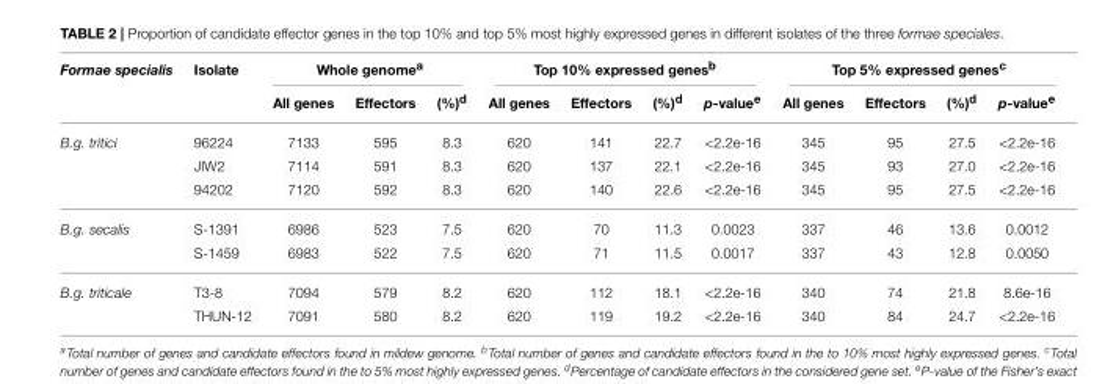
<table><thead><tr><td rowspan="2">Formae specialis</td><td rowspan="2">Isolate</td><td colspan="3">Whole genome<sup>a</sup></td><td colspan="4">Top 10% expressed genes<sup>b</sup></td><td colspan="4">Top 5% expressed genes<sup>c</sup></td></tr><tr><td>All genes</td><td>Effectors</td><td>(%)<sup>d</sup></td><td>All genes</td><td>Effectors</td><td>(%)<sup>d</sup></td><td>p-value<sup>e</sup></td><td>All genes</td><td>Effectors</td><td>(%)<sup>d</sup></td><td>p-value<sup>e</sup></td></tr></thead><tbody><tr><td rowspan="3">B.g. tritici</td><td>96224</td><td>7133</td><td>595</td><td>8.3</td><td>620</td><td>141</td><td>22.7</td><td>&lt;2.2e-16</td><td>345</td><td>95</td><td>27.5</td><td>&lt;2.2e-16</td></tr><tr><td>JIW2</td><td>7114</td><td>591</td><td>8.3</td><td>620</td><td>137</td><td>22.1</td><td>&lt;2.2e-16</td><td>345</td><td>93</td><td>27.0</td><td>&lt;2.2e-16</td></tr><tr><td>94202</td><td>7120</td><td>592</td><td>8.3</td><td>620</td><td>140</td><td>22.6</td><td>&lt;2.2e-16</td><td>345</td><td>95</td><td>27.5</td><td>&lt;2.2e-16</td></tr><tr><td rowspan="2">B.g. secalis</td><td>S-1391</td><td>6986</td><td>523</td><td>7.5</td><td>620</td><td>70</td><td>11.3</td><td>0.0023</td><td>337</td><td>46</td><td>13.6</td><td>0.0012</td></tr><tr><td>S-1459</td><td>6983</td><td>522</td><td>7.5</td><td>620</td><td>71</td><td>11.5</td><td>0.0017</td><td>337</td><td>43</td><td>12.8</td><td>0.0050</td></tr><tr><td rowspan="2">B.g. triticale</td><td>T3-8</td><td>7094</td><td>579</td><td>8.2</td><td>620</td><td>112</td><td>18.1</td><td>&lt;2.2e-16</td><td>340</td><td>74</td><td>21.8</td><td>8.6e-16</td></tr><tr><td>THUN-12</td><td>7091</td><td>580</td><td>8.2</td><td>620</td><td>119</td><td>19.2</td><td>&lt;2.2e-16</td><td>340</td><td>84</td><td>24.7</td><td>&lt;2.2e-16</td></tr></tbody></table>